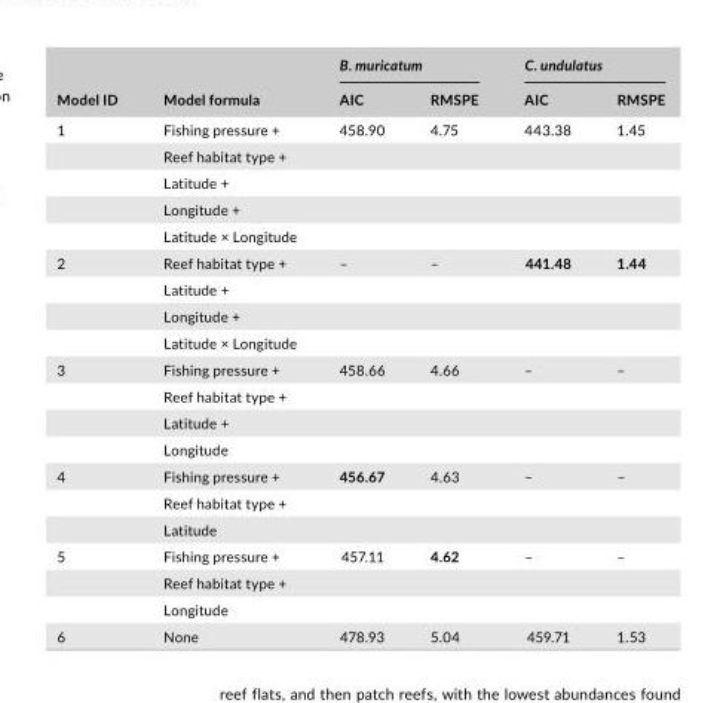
<table><thead><tr><td rowspan="2">Model ID</td><td rowspan="2">Model formula</td><td colspan="2">B. muricatum</td><td colspan="2">C. undulatus</td></tr><tr><td>AIC</td><td>RMSPE</td><td>AIC</td><td>RMSPE</td></tr></thead><tbody><tr><td rowspan="5">1</td><td>Fishing pressure +</td><td>458.90</td><td>4.75</td><td>443.38</td><td>1.45</td></tr><tr><td>Reef habitat type +</td><td></td><td></td><td></td><td></td></tr><tr><td>Latitude +</td><td></td><td></td><td></td><td></td></tr><tr><td>Longitude +</td><td></td><td></td><td></td><td></td></tr><tr><td>Latitude × Longitude</td><td></td><td></td><td></td><td></td></tr><tr><td rowspan="4">2</td><td>Reef habitat type +</td><td>–</td><td>–</td><td>441.48</td><td>1.44</td></tr><tr><td>Latitude +</td><td></td><td></td><td></td><td></td></tr><tr><td>Longitude +</td><td></td><td></td><td></td><td></td></tr><tr><td>Latitude × Longitude</td><td></td><td></td><td></td><td></td></tr><tr><td rowspan="4">3</td><td>Fishing pressure +</td><td>458.66</td><td>4.66</td><td>–</td><td>–</td></tr><tr><td>Reef habitat type +</td><td></td><td></td><td></td><td></td></tr><tr><td>Latitude +</td><td></td><td></td><td></td><td></td></tr><tr><td>Longitude</td><td></td><td></td><td></td><td></td></tr><tr><td rowspan="3">4</td><td>Fishing pressure +</td><td>456.67</td><td>4.63</td><td>–</td><td>–</td></tr><tr><td>Reef habitat type +</td><td></td><td></td><td></td><td></td></tr><tr><td>Latitude</td><td></td><td></td><td></td><td></td></tr><tr><td rowspan="3">5</td><td>Fishing pressure +</td><td>457.11</td><td>4.62</td><td>–</td><td>–</td></tr><tr><td>Reef habitat type +</td><td></td><td></td><td></td><td></td></tr><tr><td>Longitude</td><td></td><td></td><td></td><td></td></tr><tr><td>6</td><td>None</td><td>478.93</td><td>5.04</td><td>459.71</td><td>1.53</td></tr></tbody></table>